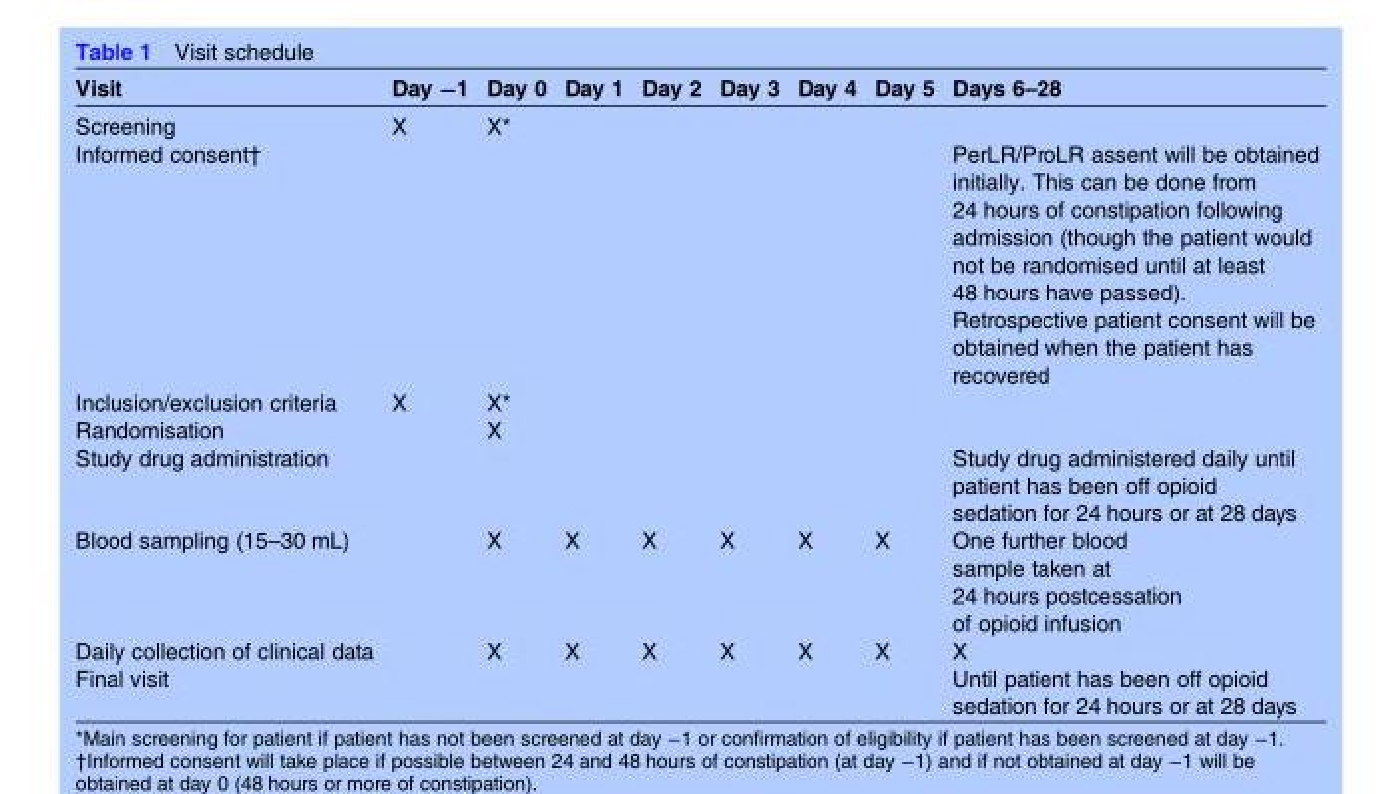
<table><thead><tr><td>Visit</td><td>Day −1</td><td>Day 0</td><td>Day 1</td><td>Day 2</td><td>Day 3</td><td>Day 4</td><td>Day 5</td><td>Days 6–28</td></tr></thead><tbody><tr><td>Screening</td><td>X</td><td>X*</td><td></td><td></td><td></td><td></td><td></td><td></td></tr><tr><td>Informed consent†</td><td></td><td colspan="7">PerLR/ProLR assent will be obtained initially. This can be done from 24 hours of constipation following admission (though the patient would not be randomised until at least 48 hours have passed). Retrospective patient consent will be obtained when the patient has recovered</td></tr><tr><td>Inclusion/exclusion criteria</td><td>X</td><td>X*</td><td></td><td></td><td></td><td></td><td></td><td></td></tr><tr><td>Randomisation</td><td></td><td>X</td><td></td><td></td><td></td><td></td><td></td><td></td></tr><tr><td>Study drug administration</td><td></td><td></td><td colspan="6">Study drug administered daily until patient has been off opioid sedation for 24 hours or at 28 days</td></tr><tr><td>Blood sampling (15–30 mL)</td><td></td><td>X</td><td>X</td><td>X</td><td>X</td><td>X</td><td>X</td><td>One further blood sample taken at 24 hours postcessation of opioid infusion</td></tr><tr><td>Daily collection of clinical data</td><td></td><td>X</td><td>X</td><td>X</td><td>X</td><td>X</td><td>X</td><td>X</td></tr><tr><td>Final visit</td><td></td><td></td><td colspan="6">Until patient has been off opioid sedation for 24 hours or at 28 days</td></tr></tbody></table>